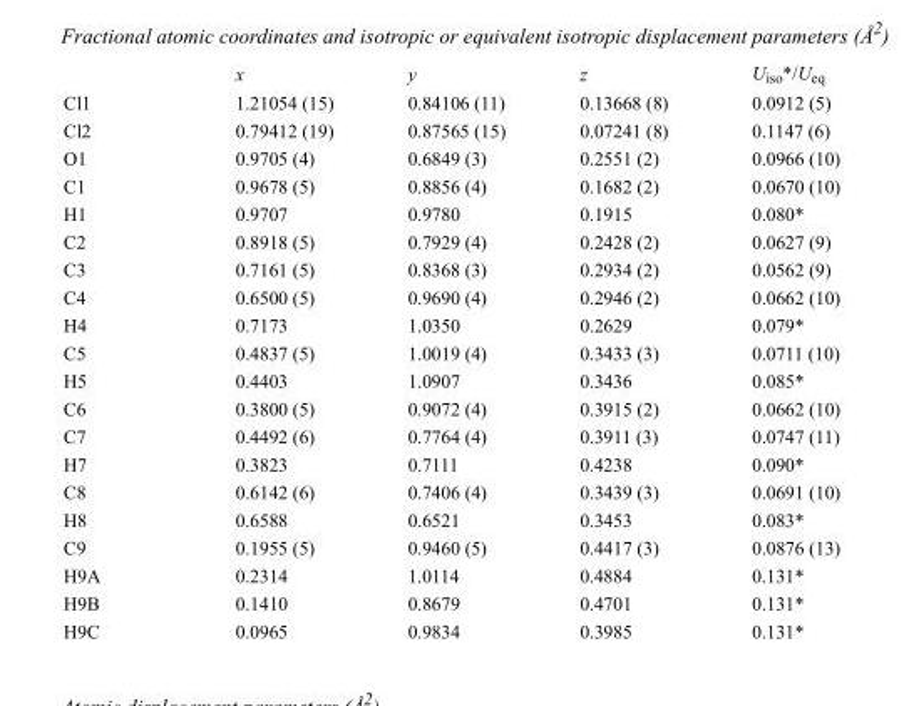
<table><thead><tr><td></td><td>x</td><td>y</td><td>z</td><td>U<sub>iso</sub>*/U<sub>eq</sub></td></tr></thead><tbody><tr><td>Cl1</td><td>1.21054 (15)</td><td>0.84106 (11)</td><td>0.13668 (8)</td><td>0.0912 (5)</td></tr><tr><td>Cl2</td><td>0.79412 (19)</td><td>0.87565 (15)</td><td>0.07241 (8)</td><td>0.1147 (6)</td></tr><tr><td>O1</td><td>0.9705 (4)</td><td>0.6849 (3)</td><td>0.2551 (2)</td><td>0.0966 (10)</td></tr><tr><td>C1</td><td>0.9678 (5)</td><td>0.8856 (4)</td><td>0.1682 (2)</td><td>0.0670 (10)</td></tr><tr><td>H1</td><td>0.9707</td><td>0.9780</td><td>0.1915</td><td>0.080*</td></tr><tr><td>C2</td><td>0.8918 (5)</td><td>0.7929 (4)</td><td>0.2428 (2)</td><td>0.0627 (9)</td></tr><tr><td>C3</td><td>0.7161 (5)</td><td>0.8368 (3)</td><td>0.2934 (2)</td><td>0.0562 (9)</td></tr><tr><td>C4</td><td>0.6500 (5)</td><td>0.9690 (4)</td><td>0.2946 (2)</td><td>0.0662 (10)</td></tr><tr><td>H4</td><td>0.7173</td><td>1.0350</td><td>0.2629</td><td>0.079*</td></tr><tr><td>C5</td><td>0.4837 (5)</td><td>1.0019 (4)</td><td>0.3433 (3)</td><td>0.0711 (10)</td></tr><tr><td>H5</td><td>0.4403</td><td>1.0907</td><td>0.3436</td><td>0.085*</td></tr><tr><td>C6</td><td>0.3800 (5)</td><td>0.9072 (4)</td><td>0.3915 (2)</td><td>0.0662 (10)</td></tr><tr><td>C7</td><td>0.4492 (6)</td><td>0.7764 (4)</td><td>0.3911 (3)</td><td>0.0747 (11)</td></tr><tr><td>H7</td><td>0.3823</td><td>0.7111</td><td>0.4238</td><td>0.090*</td></tr><tr><td>C8</td><td>0.6142 (6)</td><td>0.7406 (4)</td><td>0.3439 (3)</td><td>0.0691 (10)</td></tr><tr><td>H8</td><td>0.6588</td><td>0.6521</td><td>0.3453</td><td>0.083*</td></tr><tr><td>C9</td><td>0.1955 (5)</td><td>0.9460 (5)</td><td>0.4417 (3)</td><td>0.0876 (13)</td></tr><tr><td>H9A</td><td>0.2314</td><td>1.0114</td><td>0.4884</td><td>0.131*</td></tr><tr><td>H9B</td><td>0.1410</td><td>0.8679</td><td>0.4701</td><td>0.131*</td></tr><tr><td>H9C</td><td>0.0965</td><td>0.9834</td><td>0.3985</td><td>0.131*</td></tr></tbody></table>